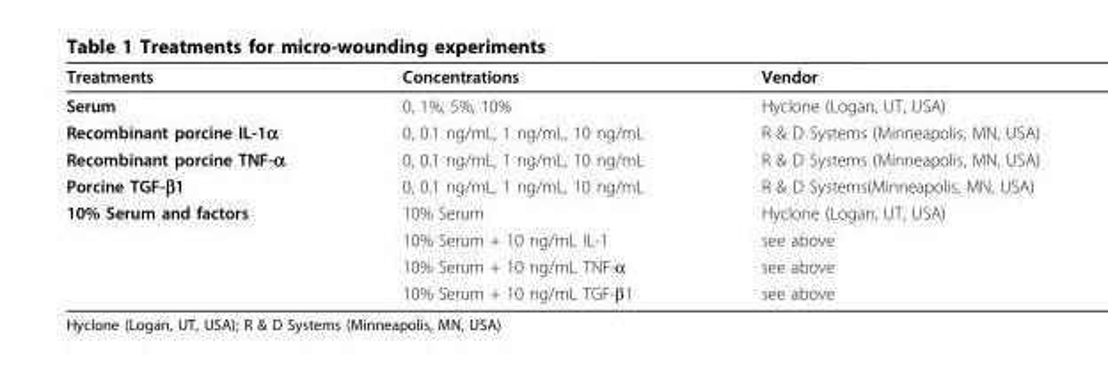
<table><thead><tr><td>Treatments</td><td>Concentrations</td><td>Vendor</td></tr></thead><tbody><tr><td>Serum</td><td>0, 1%, 5%, 10%</td><td>Hyclone (Logan, UT, USA)</td></tr><tr><td>Recombinant porcine IL-1α</td><td>0, 0.1 ng/mL, 1 ng/mL, 10 ng/mL</td><td>R &amp; D Systems (Minneapolis, MN, USA)</td></tr><tr><td>Recombinant porcine TNF-α</td><td>0, 0.1 ng/mL, 1 ng/mL, 10 ng/mL</td><td>R &amp; D Systems (Minneapolis, MN, USA)</td></tr><tr><td>Porcine TGF-β1</td><td>0, 0.1 ng/mL, 1 ng/mL, 10 ng/mL</td><td>R &amp; D Systems(Minneapolis, MN, USA)</td></tr><tr><td rowspan="4">10% Serum and factors</td><td>10% Serum</td><td>Hyclone (Logan, UT, USA)</td></tr><tr><td>10% Serum + 10 ng/mL IL-1</td><td>see above</td></tr><tr><td>10% Serum + 10 ng/mL TNF-α</td><td>see above</td></tr><tr><td>10% Serum + 10 ng/mL TGF-β1</td><td>see above</td></tr></tbody></table>